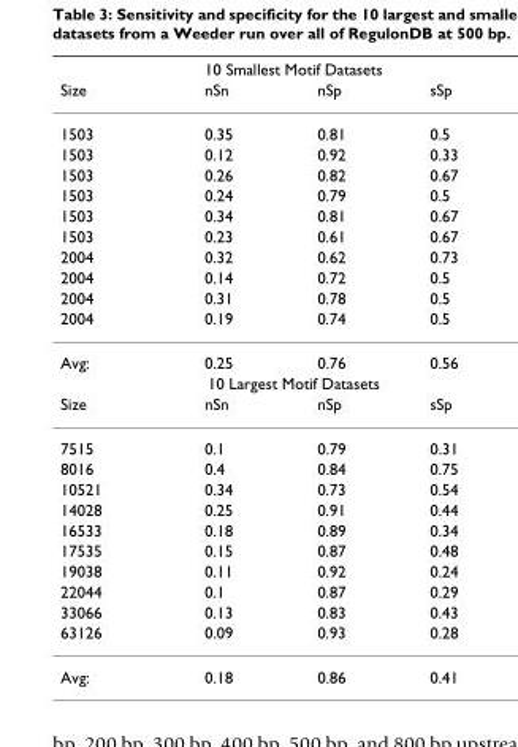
<table><thead><tr><td colspan="4">10 Smallest Motif Datasets</td></tr><tr><td>Size</td><td>nSn</td><td>nSp</td><td>sSp</td></tr></thead><tbody><tr><td>1503</td><td>0.35</td><td>0.81</td><td>0.5</td></tr><tr><td>1503</td><td>0.12</td><td>0.92</td><td>0.33</td></tr><tr><td>1503</td><td>0.26</td><td>0.82</td><td>0.67</td></tr><tr><td>1503</td><td>0.24</td><td>0.79</td><td>0.5</td></tr><tr><td>1503</td><td>0.34</td><td>0.81</td><td>0.67</td></tr><tr><td>1503</td><td>0.23</td><td>0.61</td><td>0.67</td></tr><tr><td>2004</td><td>0.32</td><td>0.62</td><td>0.73</td></tr><tr><td>2004</td><td>0.14</td><td>0.72</td><td>0.5</td></tr><tr><td>2004</td><td>0.31</td><td>0.78</td><td>0.5</td></tr><tr><td>2004</td><td>0.19</td><td>0.74</td><td>0.5</td></tr><tr><td>Avg:</td><td>0.25</td><td>0.76</td><td>0.56</td></tr><tr><td colspan="4">10 Largest Motif Datasets</td></tr><tr><td>Size</td><td>nSn</td><td>nSp</td><td>sSp</td></tr><tr><td>7515</td><td>0.1</td><td>0.79</td><td>0.31</td></tr><tr><td>8016</td><td>0.4</td><td>0.84</td><td>0.75</td></tr><tr><td>10521</td><td>0.34</td><td>0.73</td><td>0.54</td></tr><tr><td>14028</td><td>0.25</td><td>0.91</td><td>0.44</td></tr><tr><td>16533</td><td>0.18</td><td>0.89</td><td>0.34</td></tr><tr><td>17535</td><td>0.15</td><td>0.87</td><td>0.48</td></tr><tr><td>19038</td><td>0.11</td><td>0.92</td><td>0.24</td></tr><tr><td>22044</td><td>0.1</td><td>0.87</td><td>0.29</td></tr><tr><td>33066</td><td>0.13</td><td>0.83</td><td>0.43</td></tr><tr><td>63126</td><td>0.09</td><td>0.93</td><td>0.28</td></tr><tr><td>Avg:</td><td>0.18</td><td>0.86</td><td>0.41</td></tr></tbody></table>